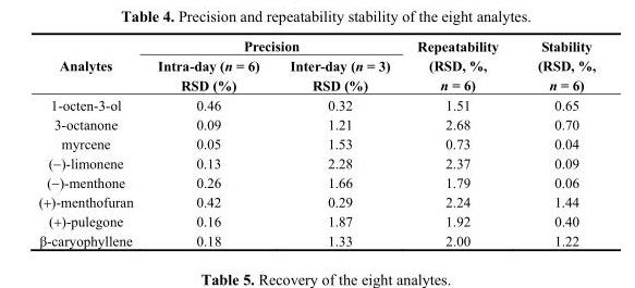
<table><thead><tr><td rowspan="2">Analytes</td><td colspan="2">Precision</td><td rowspan="2">Repeatability (RSD, %, n = 6)</td><td rowspan="2">Stability (RSD, %, n = 6)</td></tr><tr><td>Intra-day (n = 6) RSD (%)</td><td>Inter-day (n = 3) RSD (%)</td></tr></thead><tbody><tr><td>1-octen-3-ol</td><td>0.46</td><td>0.32</td><td>1.51</td><td>0.65</td></tr><tr><td>3-octanone</td><td>0.09</td><td>1.21</td><td>2.68</td><td>0.70</td></tr><tr><td>myrcene</td><td>0.05</td><td>1.53</td><td>0.73</td><td>0.04</td></tr><tr><td>(−)-limonene</td><td>0.13</td><td>2.28</td><td>2.37</td><td>0.09</td></tr><tr><td>(−)-menthone</td><td>0.26</td><td>1.66</td><td>1.79</td><td>0.06</td></tr><tr><td>(+)-menthofuran</td><td>0.42</td><td>0.29</td><td>2.24</td><td>1.44</td></tr><tr><td>(+)-pulegone</td><td>0.16</td><td>1.87</td><td>1.92</td><td>0.40</td></tr><tr><td>β-caryophyllene</td><td>0.18</td><td>1.33</td><td>2.00</td><td>1.22</td></tr></tbody></table>